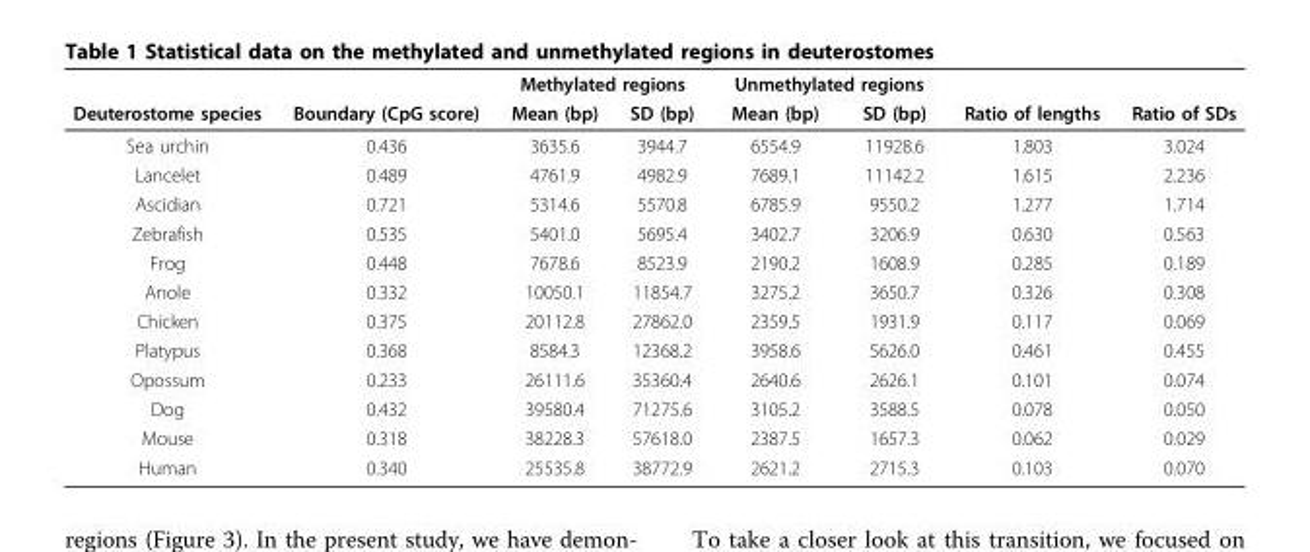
<table><thead><tr><td rowspan="2">Deuterostome species</td><td rowspan="2">Boundary (CpG score)</td><td colspan="2">Methylated regions</td><td colspan="2">Unmethylated regions</td><td rowspan="2">Ratio of lengths</td><td rowspan="2">Ratio of SDs</td></tr><tr><td>Mean (bp)</td><td>SD (bp)</td><td>Mean (bp)</td><td>SD (bp)</td></tr></thead><tbody><tr><td>Sea urchin</td><td>0.436</td><td>3635.6</td><td>3944.7</td><td>6554.9</td><td>11928.6</td><td>1.803</td><td>3.024</td></tr><tr><td>Lancelet</td><td>0.489</td><td>4761.9</td><td>4982.9</td><td>7689.1</td><td>11142.2</td><td>1.615</td><td>2.236</td></tr><tr><td>Ascidian</td><td>0.721</td><td>5314.6</td><td>5570.8</td><td>6785.9</td><td>9550.2</td><td>1.277</td><td>1.714</td></tr><tr><td>Zebrafish</td><td>0.535</td><td>5401.0</td><td>5695.4</td><td>3402.7</td><td>3206.9</td><td>0.630</td><td>0.563</td></tr><tr><td>Frog</td><td>0.448</td><td>7678.6</td><td>8523.9</td><td>2190.2</td><td>1608.9</td><td>0.285</td><td>0.189</td></tr><tr><td>Anole</td><td>0.332</td><td>10050.1</td><td>11854.7</td><td>3275.2</td><td>3650.7</td><td>0.326</td><td>0.308</td></tr><tr><td>Chicken</td><td>0.375</td><td>20112.8</td><td>27862.0</td><td>2359.5</td><td>1931.9</td><td>0.117</td><td>0.069</td></tr><tr><td>Platypus</td><td>0.368</td><td>8584.3</td><td>12368.2</td><td>3958.6</td><td>5626.0</td><td>0.461</td><td>0.455</td></tr><tr><td>Opossum</td><td>0.233</td><td>26111.6</td><td>35360.4</td><td>2640.6</td><td>2626.1</td><td>0.101</td><td>0.074</td></tr><tr><td>Dog</td><td>0.432</td><td>39580.4</td><td>71275.6</td><td>3105.2</td><td>3588.5</td><td>0.078</td><td>0.050</td></tr><tr><td>Mouse</td><td>0.318</td><td>38228.3</td><td>57618.0</td><td>2387.5</td><td>1657.3</td><td>0.062</td><td>0.029</td></tr><tr><td>Human</td><td>0.340</td><td>25535.8</td><td>38772.9</td><td>2621.2</td><td>2715.3</td><td>0.103</td><td>0.070</td></tr></tbody></table>